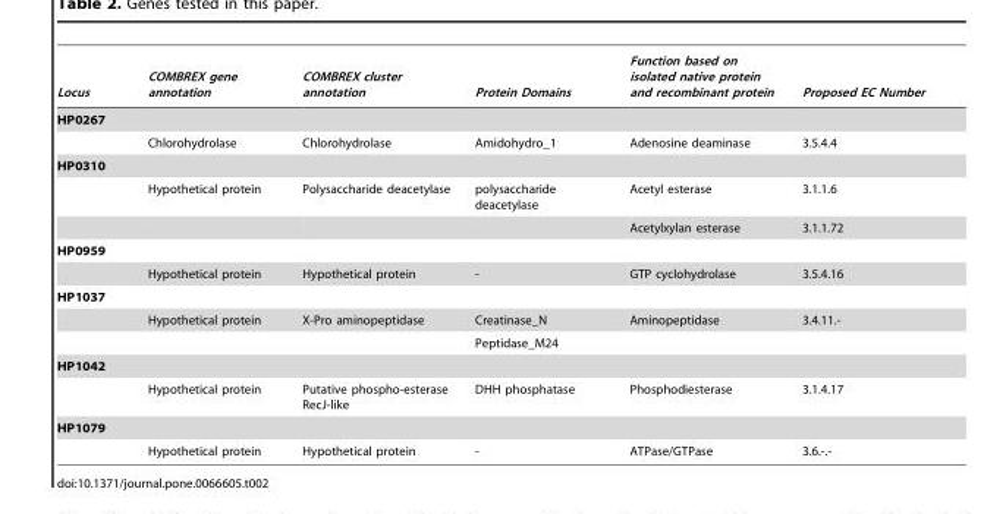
<table><thead><tr><td>Locus</td><td>COMBREX gene annotation</td><td>COMBREX cluster annotation</td><td>Protein Domains</td><td>Function based on isolated native protein and recombinant protein</td><td>Proposed EC Number</td></tr></thead><tbody><tr><td colspan="6">HP0267</td></tr><tr><td></td><td>Chlorohydrolase</td><td>Chlorohydrolase</td><td>Amidohydro_1</td><td>Adenosine deaminase</td><td>3.5.4.4</td></tr><tr><td colspan="6">HP0310</td></tr><tr><td></td><td>Hypothetical protein</td><td>Polysaccharide deacetylase</td><td>polysaccharide deacetylase</td><td>Acetyl esterase</td><td>3.1.1.6</td></tr><tr><td></td><td></td><td></td><td></td><td>Acetylxylan esterase</td><td>3.1.1.72</td></tr><tr><td colspan="6">HP0959</td></tr><tr><td></td><td>Hypothetical protein</td><td>Hypothetical protein</td><td>-</td><td>GTP cyclohydrolase</td><td>3.5.4.16</td></tr><tr><td colspan="6">HP1037</td></tr><tr><td></td><td>Hypothetical protein</td><td>X-Pro aminopeptidase</td><td>Creatinase_N</td><td>Aminopeptidase</td><td>3.4.11.-</td></tr><tr><td></td><td></td><td></td><td>Peptidase_M24</td><td></td><td></td></tr><tr><td colspan="6">HP1042</td></tr><tr><td></td><td>Hypothetical protein</td><td>Putative phospho-esterase RecJ-like</td><td>DHH phosphatase</td><td>Phosphodiesterase</td><td>3.1.4.17</td></tr><tr><td colspan="6">HP1079</td></tr><tr><td></td><td>Hypothetical protein</td><td>Hypothetical protein</td><td>-</td><td>ATPase/GTPase</td><td>3.6.-.-</td></tr></tbody></table>